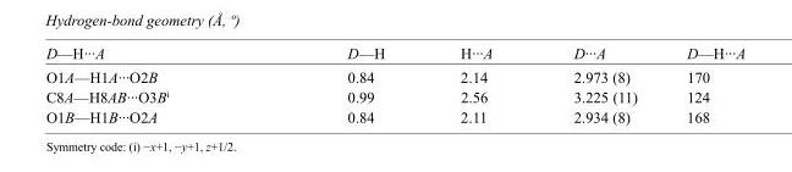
<table><tbody><tr><td>D—H···A</td><td>D—H</td><td>H···A</td><td>D···A</td><td>D—H···A</td></tr><tr><td>O1A—H1A···O2B</td><td>0.84</td><td>2.14</td><td>2.973 (8)</td><td>170</td></tr><tr><td>C8A—H8AB···O3B<sup>i</sup></td><td>0.99</td><td>2.56</td><td>3.225 (11)</td><td>124</td></tr><tr><td>O1B—H1B···O2A</td><td>0.84</td><td>2.11</td><td>2.934 (8)</td><td>168</td></tr></tbody></table>